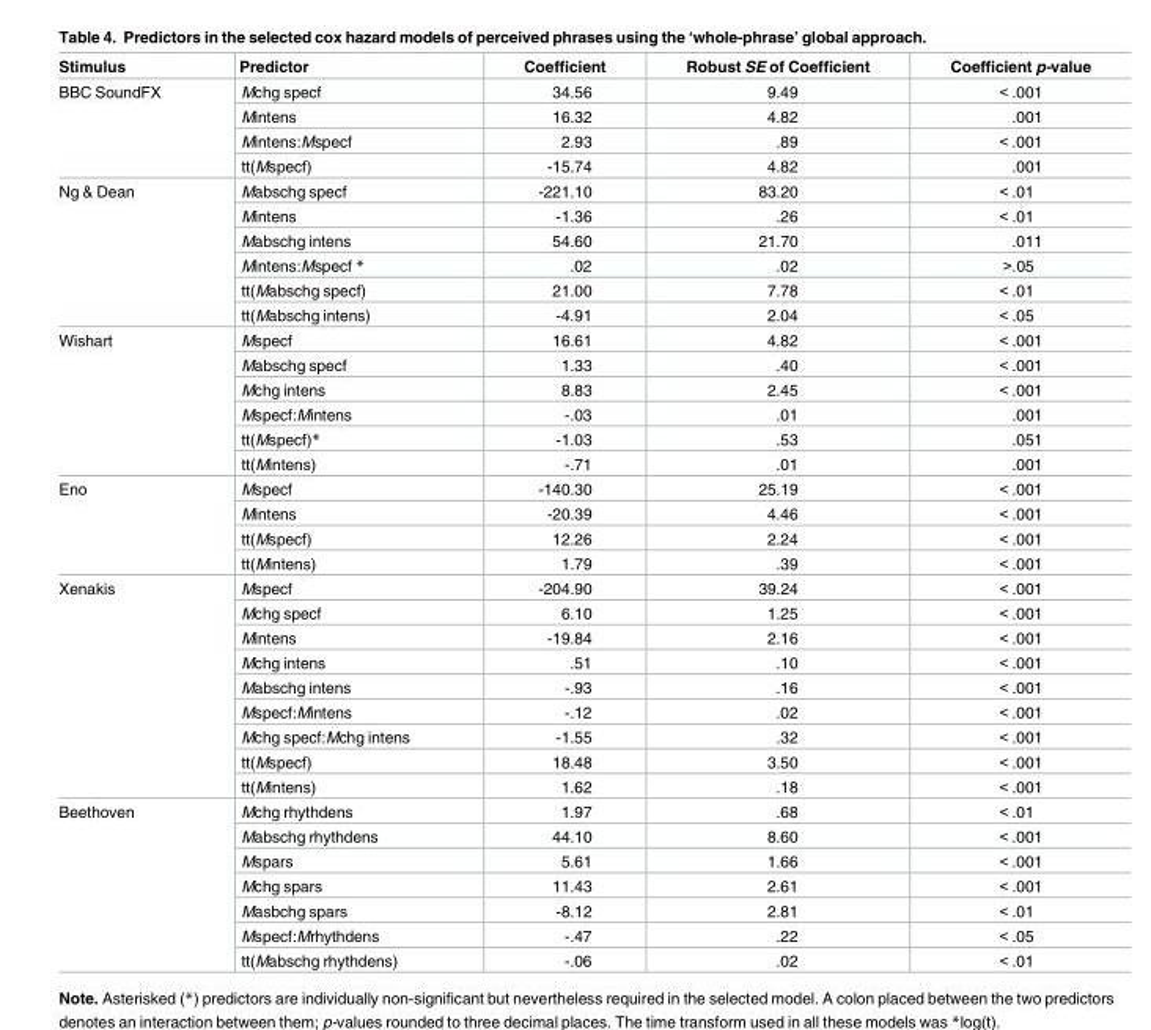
<table><thead><tr><td>Stimulus</td><td>Predictor</td><td>Coefficient</td><td>Robust SE of Coefficient</td><td>Coefficient p-value</td></tr></thead><tbody><tr><td rowspan="4">BBC SoundFX</td><td>Mchg specf</td><td>34.56</td><td>9.49</td><td>&lt; .001</td></tr><tr><td>Mintens</td><td>16.32</td><td>4.82</td><td>.001</td></tr><tr><td>Mintens:Mspecf</td><td>2.93</td><td>.89</td><td>&lt; .001</td></tr><tr><td>tt(Mspecf)</td><td>-15.74</td><td>4.82</td><td>.001</td></tr><tr><td rowspan="6">Ng &amp; Dean</td><td>Mabschg specf</td><td>-221.10</td><td>83.20</td><td>&lt; .01</td></tr><tr><td>Mintens</td><td>-1.36</td><td>.26</td><td>&lt; .01</td></tr><tr><td>Mabschg intens</td><td>54.60</td><td>21.70</td><td>.011</td></tr><tr><td>Mintens:Mspecf *</td><td>.02</td><td>.02</td><td>&gt;.05</td></tr><tr><td>tt(Mabschg specf)</td><td>21.00</td><td>7.78</td><td>&lt; .01</td></tr><tr><td>tt(Mabschg intens)</td><td>-4.91</td><td>2.04</td><td>&lt; .05</td></tr><tr><td rowspan="6">Wishart</td><td>Mspecf</td><td>16.61</td><td>4.82</td><td>&lt; .001</td></tr><tr><td>Mabschg specf</td><td>1.33</td><td>.40</td><td>&lt; .001</td></tr><tr><td>Mchg intens</td><td>8.83</td><td>2.45</td><td>&lt; .001</td></tr><tr><td>Mspecf:Mintens</td><td>-.03</td><td>.01</td><td>.001</td></tr><tr><td>tt(Mspecf)*</td><td>-1.03</td><td>.53</td><td>.051</td></tr><tr><td>tt(Mintens)</td><td>-.71</td><td>.01</td><td>.001</td></tr><tr><td rowspan="4">Eno</td><td>Mspecf</td><td>-140.30</td><td>25.19</td><td>&lt; .001</td></tr><tr><td>Mintens</td><td>-20.39</td><td>4.46</td><td>&lt; .001</td></tr><tr><td>tt(Mspecf)</td><td>12.26</td><td>2.24</td><td>&lt; .001</td></tr><tr><td>tt(Mintens)</td><td>1.79</td><td>.39</td><td>&lt; .001</td></tr><tr><td rowspan="9">Xenakis</td><td>Mspecf</td><td>-204.90</td><td>39.24</td><td>&lt; .001</td></tr><tr><td>Mchg specf</td><td>6.10</td><td>1.25</td><td>&lt; .001</td></tr><tr><td>Mintens</td><td>-19.84</td><td>2.16</td><td>&lt; .001</td></tr><tr><td>Mchg intens</td><td>.51</td><td>.10</td><td>&lt; .001</td></tr><tr><td>Mabschg intens</td><td>-.93</td><td>.16</td><td>&lt; .001</td></tr><tr><td>Mspecf:Mintens</td><td>-.12</td><td>.02</td><td>&lt; .001</td></tr><tr><td>Mchg specf:Mchg intens</td><td>-1.55</td><td>.32</td><td>&lt; .001</td></tr><tr><td>tt(Mspecf)</td><td>18.48</td><td>3.50</td><td>&lt; .001</td></tr><tr><td>tt(Mintens)</td><td>1.62</td><td>.18</td><td>&lt; .001</td></tr><tr><td rowspan="7">Beethoven</td><td>Mchg rhythdens</td><td>1.97</td><td>.68</td><td>&lt; .01</td></tr><tr><td>Mabschg rhythdens</td><td>44.10</td><td>8.60</td><td>&lt; .001</td></tr><tr><td>Mspars</td><td>5.61</td><td>1.66</td><td>&lt; .001</td></tr><tr><td>Mchg spars</td><td>11.43</td><td>2.61</td><td>&lt; .001</td></tr><tr><td>Masbchg spars</td><td>-8.12</td><td>2.81</td><td>&lt; .01</td></tr><tr><td>Mspecf:Mrhythdens</td><td>-.47</td><td>.22</td><td>&lt; .05</td></tr><tr><td>tt(Mabschg rhythdens)</td><td>-.06</td><td>.02</td><td>&lt; .01</td></tr></tbody></table>